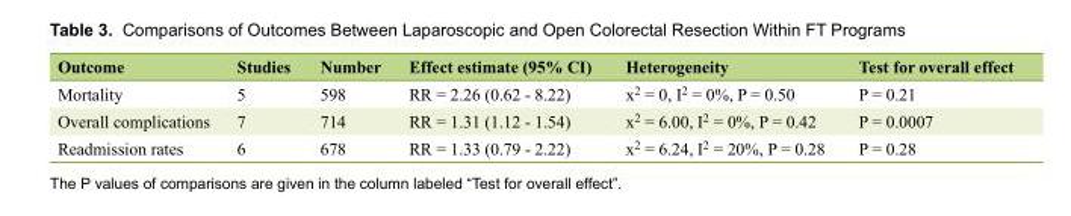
<table><thead><tr><td>Outcome</td><td>Studies</td><td>Number</td><td>Effect estimate (95% CI)</td><td>Heterogeneity</td><td>Test for overall effect</td></tr></thead><tbody><tr><td>Mortality</td><td>5</td><td>598</td><td>RR = 2.26 (0.62 - 8.22)</td><td>x<sup>2</sup> = 0, I<sup>2</sup> = 0%, P = 0.50</td><td>P = 0.21</td></tr><tr><td>Overall complications</td><td>7</td><td>714</td><td>RR = 1.31 (1.12 - 1.54)</td><td>x<sup>2</sup> = 6.00, I<sup>2</sup> = 0%, P = 0.42</td><td>P = 0.0007</td></tr><tr><td>Readmission rates</td><td>6</td><td>678</td><td>RR = 1.33 (0.79 - 2.22)</td><td>x<sup>2</sup> = 6.24, I<sup>2</sup> = 20%, P = 0.28</td><td>P = 0.28</td></tr></tbody></table>